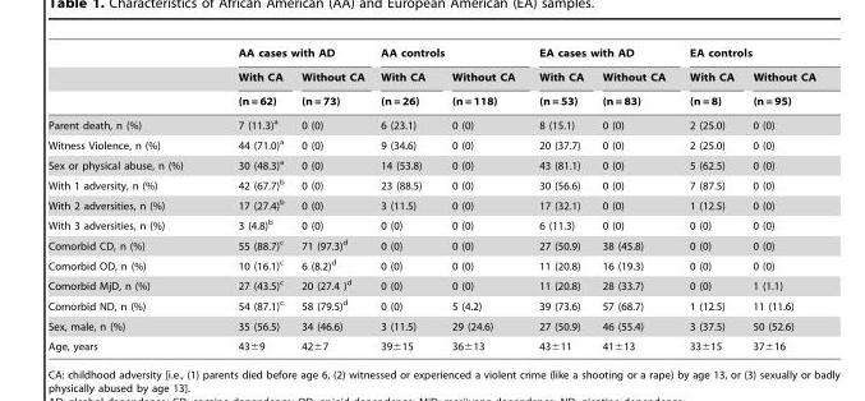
<table><thead><tr><td rowspan="3"></td><td colspan="2">AA cases with AD</td><td colspan="2">AA controls</td><td colspan="2">EA cases with AD</td><td colspan="2">EA controls</td></tr><tr><td rowspan="2">With CA (n = 62)</td><td rowspan="2">Without CA (n = 73)</td><td rowspan="2">With CA (n = 26)</td><td rowspan="2">Without CA (n = 118)</td><td rowspan="2">With CA (n = 53)</td><td rowspan="2">Without CA (n = 83)</td><td rowspan="2">With CA (n = 8)</td><td rowspan="2">Without CA (n = 95)</td></tr><tr></tr></thead><tbody><tr><td>Parent death, n (%)</td><td>7 (11.3)<sup>a</sup></td><td>0 (0)</td><td>6 (23.1)</td><td>0 (0)</td><td>8 (15.1)</td><td>0 (0)</td><td>2 (25.0)</td><td>0 (0)</td></tr><tr><td>Witness Violence, n (%)</td><td>44 (71.0)<sup>a</sup></td><td>0 (0)</td><td>9 (34.6)</td><td>0 (0)</td><td>20 (37.7)</td><td>0 (0)</td><td>2 (25.0)</td><td>0 (0)</td></tr><tr><td>Sex or physical abuse, n (%)</td><td>30 (48.3)<sup>a</sup></td><td>0 (0)</td><td>14 (53.8)</td><td>0 (0)</td><td>43 (81.1)</td><td>0 (0)</td><td>5 (62.5)</td><td>0 (0)</td></tr><tr><td>With 1 adversity, n (%)</td><td>42 (67.7)<sup>b</sup></td><td>0 (0)</td><td>23 (88.5)</td><td>0 (0)</td><td>30 (56.6)</td><td>0 (0)</td><td>7 (87.5)</td><td>0 (0)</td></tr><tr><td>With 2 adversities, n (%)</td><td>17 (27.4)<sup>b</sup></td><td>0 (0)</td><td>3 (11.5)</td><td>0 (0)</td><td>17 (32.1)</td><td>0 (0)</td><td>1 (12.5)</td><td>0 (0)</td></tr><tr><td>With 3 adversities, n (%)</td><td>3 (4.8)<sup>b</sup></td><td>0 (0)</td><td>0 (0)</td><td>0 (0)</td><td>6 (11.3)</td><td>0 (0)</td><td>0 (0)</td><td>0 (0)</td></tr><tr><td>Comorbid CD, n (%)</td><td>55 (88.7)<sup>c</sup></td><td>71 (97.3)<sup>d</sup></td><td>0 (0)</td><td>0 (0)</td><td>27 (50.9)</td><td>38 (45.8)</td><td>0 (0)</td><td>0 (0)</td></tr><tr><td>Comorbid OD, n (%)</td><td>10 (16.1)<sup>c</sup></td><td>6 (8.2)<sup>d</sup></td><td>0 (0)</td><td>0 (0)</td><td>11 (20.8)</td><td>16 (19.3)</td><td>0 (0)</td><td>0 (0)</td></tr><tr><td>Comorbid MjD, n (%)</td><td>27 (43.5)<sup>c</sup></td><td>20 (27.4 )<sup>d</sup></td><td>0 (0)</td><td>0 (0)</td><td>11 (20.8)</td><td>28 (33.7)</td><td>0 (0)</td><td>1 (1.1)</td></tr><tr><td>Comorbid ND, n (%)</td><td>54 (87.1)<sup>c</sup></td><td>58 (79.5)<sup>d</sup></td><td>0 (0)</td><td>5 (4.2)</td><td>39 (73.6)</td><td>57 (68.7)</td><td>1 (12.5)</td><td>11 (11.6)</td></tr><tr><td>Sex, male, n (%)</td><td>35 (56.5)</td><td>34 (46.6)</td><td>3 (11.5)</td><td>29 (24.6)</td><td>27 (50.9)</td><td>46 (55.4)</td><td>3 (37.5)</td><td>50 (52.6)</td></tr><tr><td>Age, years</td><td>43±9</td><td>42±7</td><td>39±15</td><td>36±13</td><td>43±11</td><td>41±13</td><td>33±15</td><td>37±16</td></tr></tbody></table>